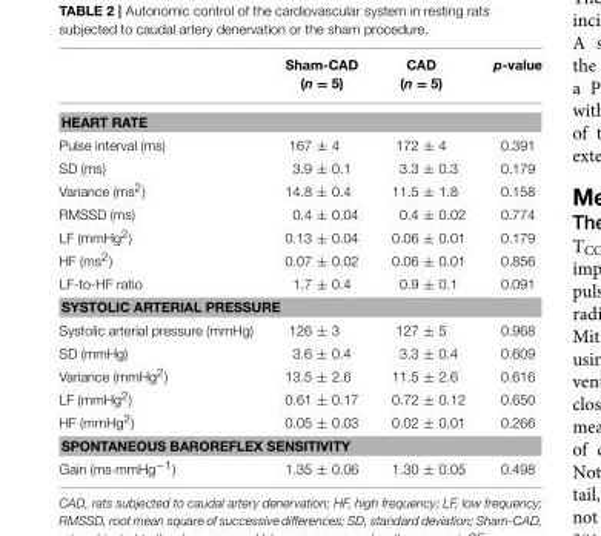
<table><thead><tr><td></td><td>Sham-CAD (n = 5)</td><td>CAD (n = 5)</td><td>p-value</td></tr></thead><tbody><tr><td colspan="4">HEART RATE</td></tr><tr><td>Pulse interval (ms)</td><td>167 ± 4</td><td>172 ± 4</td><td>0.391</td></tr><tr><td>SD (ms)</td><td>3.9 ± 0.1</td><td>3.3 ± 0.3</td><td>0.179</td></tr><tr><td>Variance (ms<sup>2</sup>)</td><td>14.8 ± 0.4</td><td>11.5 ± 1.8</td><td>0.158</td></tr><tr><td>RMSSD (ms)</td><td>0.4 ± 0.04</td><td>0.4 ± 0.02</td><td>0.774</td></tr><tr><td>LF (mmHg<sup>2</sup>)</td><td>0.13 ± 0.04</td><td>0.06 ± 0.01</td><td>0.179</td></tr><tr><td>HF (ms<sup>2</sup>)</td><td>0.07 ± 0.02</td><td>0.06 ± 0.01</td><td>0.856</td></tr><tr><td>LF-to-HF ratio</td><td>1.7 ± 0.4</td><td>0.9 ± 0.1</td><td>0.091</td></tr><tr><td colspan="4">SYSTOLIC ARTERIAL PRESSURE</td></tr><tr><td>Systolic arterial pressure (mmHg)</td><td>126 ± 3</td><td>127 ± 5</td><td>0.968</td></tr><tr><td>SD (mmHg)</td><td>3.6 ± 0.4</td><td>3.3 ± 0.4</td><td>0.609</td></tr><tr><td>Variance (mmHg<sup>2</sup>)</td><td>13.5 ± 2.6</td><td>11.5 ± 2.6</td><td>0.616</td></tr><tr><td>LF (mmHg<sup>2</sup>)</td><td>0.61 ± 0.17</td><td>0.72 ± 0.12</td><td>0.650</td></tr><tr><td>HF (mmHg<sup>2</sup>)</td><td>0.05 ± 0.03</td><td>0.02 ± 0.01</td><td>0.266</td></tr><tr><td colspan="4">SPONTANEOUS BAROREFLEX SENSITIVITY</td></tr><tr><td>Gain (ms·mmHg<sup>−1</sup>)</td><td>1.35 ± 0.06</td><td>1.30 ± 0.05</td><td>0.498</td></tr></tbody></table>